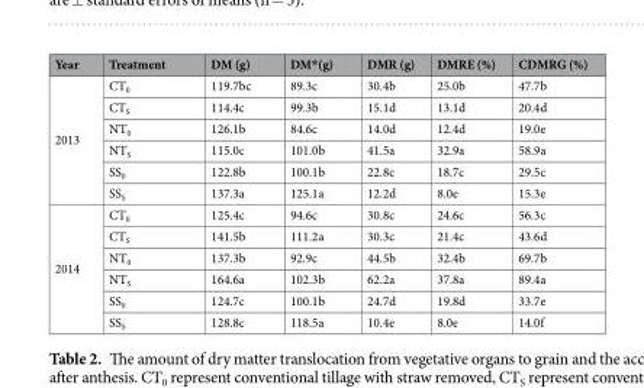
<table><thead><tr><td>Year</td><td>Treatment</td><td>DM (g)</td><td>DM*(g)</td><td>DMR (g)</td><td>DMRE (%)</td><td>CDMRG (%)</td></tr></thead><tbody><tr><td rowspan="6">2013</td><td>CT<sub>0</sub></td><td>119.7bc</td><td>89.3c</td><td>30.4b</td><td>25.0b</td><td>47.7b</td></tr><tr><td>CT<sub>S</sub></td><td>114.4c</td><td>99.3b</td><td>15.1d</td><td>13.1d</td><td>20.4d</td></tr><tr><td>NT<sub>0</sub></td><td>126.1b</td><td>84.6c</td><td>14.0d</td><td>12.4d</td><td>19.0e</td></tr><tr><td>NT<sub>S</sub></td><td>115.0c</td><td>101.0b</td><td>41.5a</td><td>32.9a</td><td>58.9a</td></tr><tr><td>SS<sub>0</sub></td><td>122.8b</td><td>100.1b</td><td>22.8c</td><td>18.7c</td><td>29.5c</td></tr><tr><td>SS<sub>S</sub></td><td>137.3a</td><td>125.1a</td><td>12.2d</td><td>8.0e</td><td>15.3e</td></tr><tr><td rowspan="6">2014</td><td>CT<sub>0</sub></td><td>125.4c</td><td>94.6c</td><td>30.8c</td><td>24.6c</td><td>56.3c</td></tr><tr><td>CT<sub>S</sub></td><td>141.5b</td><td>111.2a</td><td>30.3c</td><td>21.4c</td><td>43.6d</td></tr><tr><td>NT<sub>0</sub></td><td>137.3b</td><td>92.9c</td><td>44.5b</td><td>32.4b</td><td>69.7b</td></tr><tr><td>NT<sub>S</sub></td><td>164.6a</td><td>102.3b</td><td>62.2a</td><td>37.8a</td><td>89.4a</td></tr><tr><td>SS<sub>0</sub></td><td>124.7c</td><td>100.1b</td><td>24.7d</td><td>19.8d</td><td>33.7e</td></tr><tr><td>SS<sub>S</sub></td><td>128.8c</td><td>118.5a</td><td>10.4e</td><td>8.0e</td><td>14.0f</td></tr></tbody></table>